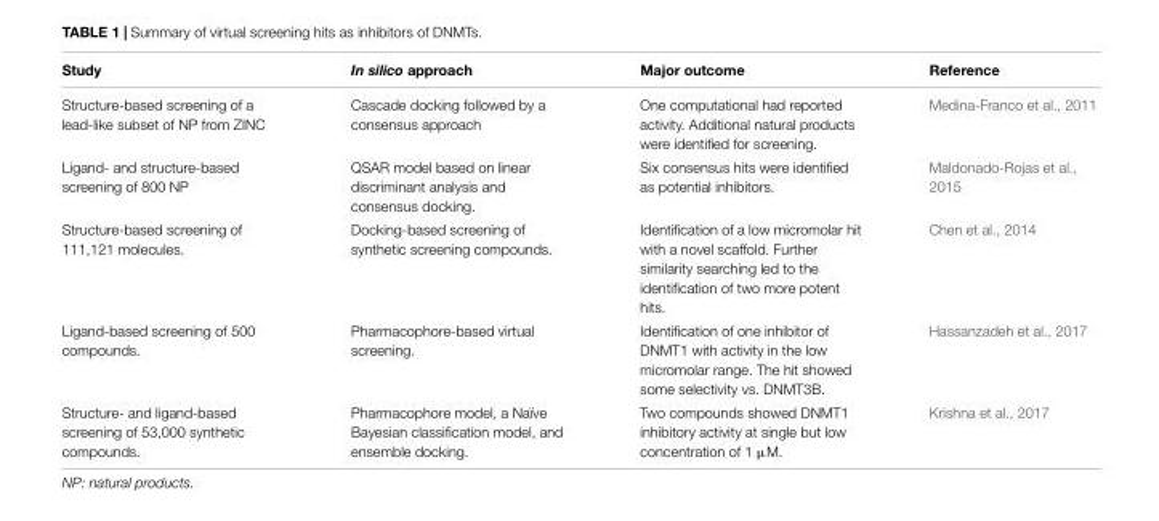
<table><thead><tr><td>Study</td><td>In silico approach</td><td>Major outcome</td><td>Reference</td></tr></thead><tbody><tr><td>Structure-based screening of a lead-like subset of NP from ZINC</td><td>Cascade docking followed by a consensus approach</td><td>One computational had reported activity. Additional natural products were identified for screening.</td><td>Medina-Franco et al., 2011</td></tr><tr><td>Ligand- and structure-based screening of 800 NP</td><td>QSAR model based on linear discriminant analysis and consensus docking.</td><td>Six consensus hits were identified as potential inhibitors.</td><td>Maldonado-Rojas et al., 2015</td></tr><tr><td>Structure-based screening of 111,121 molecules.</td><td>Docking-based screening of synthetic screening compounds.</td><td>Identification of a low micromolar hit with a novel scaffold. Further similarity searching led to the identification of two more potent hits.</td><td>Chen et al., 2014</td></tr><tr><td>Ligand-based screening of 500 compounds.</td><td>Pharmacophore-based virtual screening.</td><td>Identification of one inhibitor of DNMT1 with activity in the low micromolar range. The hit showed some selectivity vs. DNMT3B.</td><td>Hassanzadeh et al., 2017</td></tr><tr><td>Structure- and ligand-based screening of 53,000 synthetic compounds.</td><td>Pharmacophore model, a Naïve Bayesian classification model, and ensemble docking.</td><td>Two compounds showed DNMT1 inhibitory activity at single but low concentration of 1 µM.</td><td>Krishna et al., 2017</td></tr></tbody></table>